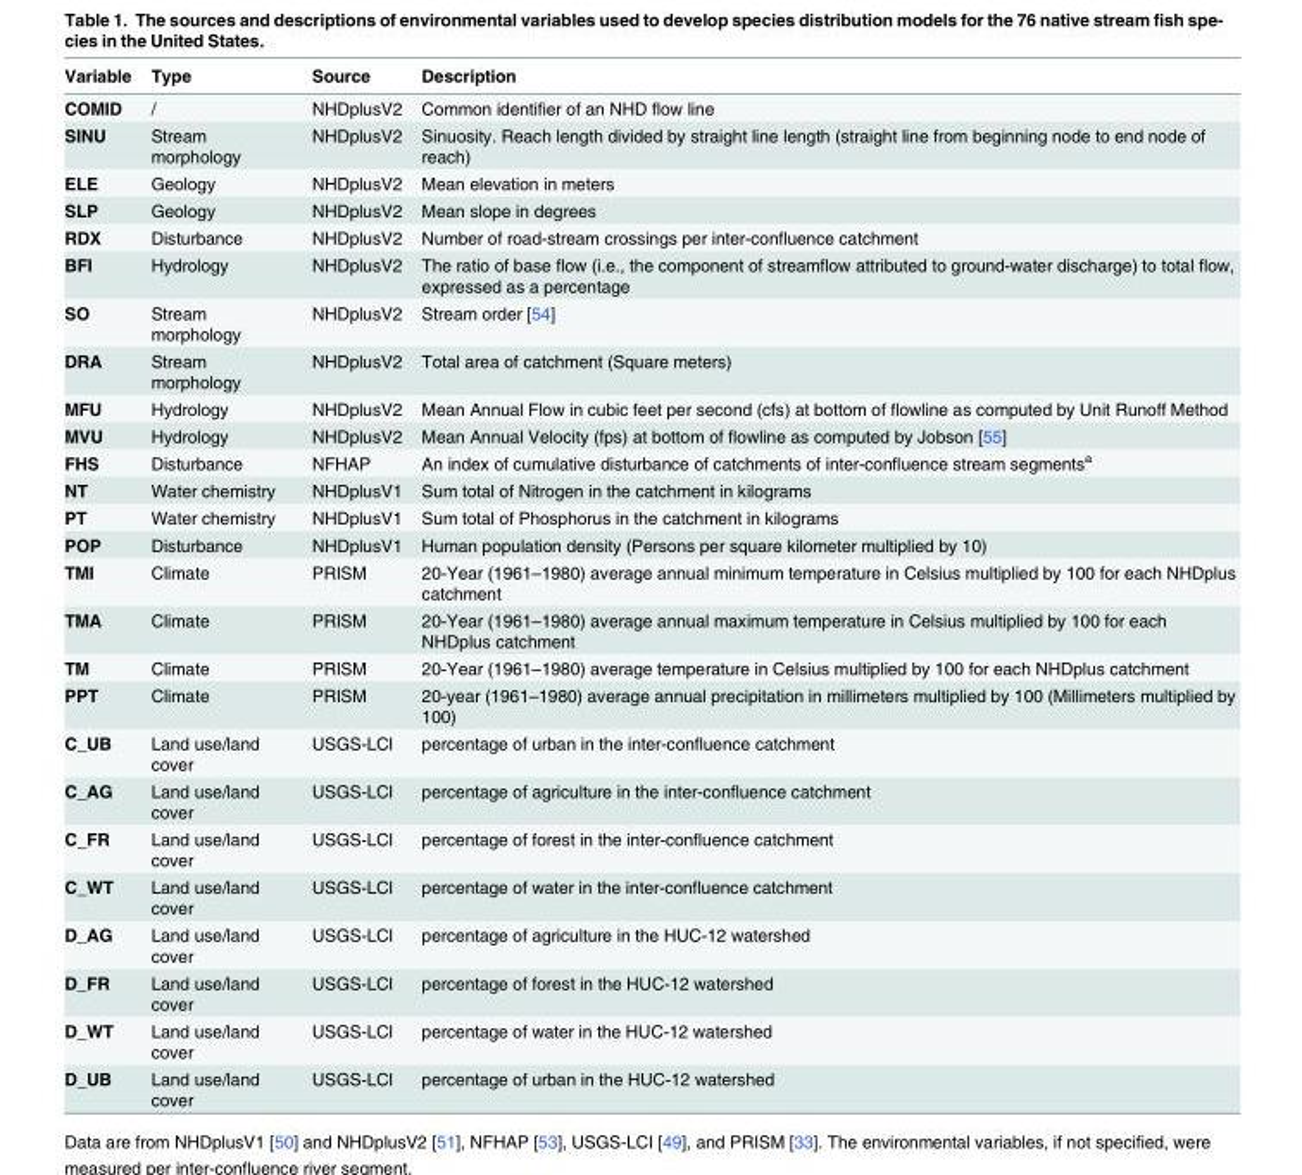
<table><thead><tr><td>Variable</td><td>Type</td><td>Source</td><td>Description</td></tr></thead><tbody><tr><td>COMID</td><td>/</td><td>NHDplusV2</td><td>Common identifier of an NHD flow line</td></tr><tr><td>SINU</td><td>Stream morphology</td><td>NHDplusV2</td><td>Sinuosity. Reach length divided by straight line length (straight line from beginning node to end node of reach)</td></tr><tr><td>ELE</td><td>Geology</td><td>NHDplusV2</td><td>Mean elevation in meters</td></tr><tr><td>SLP</td><td>Geology</td><td>NHDplusV2</td><td>Mean slope in degrees</td></tr><tr><td>RDX</td><td>Disturbance</td><td>NHDplusV2</td><td>Number of road-stream crossings per inter-confluence catchment</td></tr><tr><td>BFI</td><td>Hydrology</td><td>NHDplusV2</td><td>The ratio of base flow (i.e., the component of streamflow attributed to ground-water discharge) to total flow, expressed as a percentage</td></tr><tr><td>SO</td><td>Stream morphology</td><td>NHDplusV2</td><td>Stream order [54]</td></tr><tr><td>DRA</td><td>Stream morphology</td><td>NHDplusV2</td><td>Total area of catchment (Square meters)</td></tr><tr><td>MFU</td><td>Hydrology</td><td>NHDplusV2</td><td>Mean Annual Flow in cubic feet per second (cfs) at bottom of flowline as computed by Unit Runoff Method</td></tr><tr><td>MVU</td><td>Hydrology</td><td>NHDplusV2</td><td>Mean Annual Velocity (fps) at bottom of flowline as computed by Jobson [55]</td></tr><tr><td>FHS</td><td>Disturbance</td><td>NFHAP</td><td>An index of cumulative disturbance of catchments of inter-confluence stream segments<sup>a</sup></td></tr><tr><td>NT</td><td>Water chemistry</td><td>NHDplusV1</td><td>Sum total of Nitrogen in the catchment in kilograms</td></tr><tr><td>PT</td><td>Water chemistry</td><td>NHDplusV1</td><td>Sum total of Phosphorus in the catchment in kilograms</td></tr><tr><td>POP</td><td>Disturbance</td><td>NHDplusV1</td><td>Human population density (Persons per square kilometer multiplied by 10)</td></tr><tr><td>TMI</td><td>Climate</td><td>PRISM</td><td>20-Year (1961–1980) average annual minimum temperature in Celsius multiplied by 100 for each NHDplus catchment</td></tr><tr><td>TMA</td><td>Climate</td><td>PRISM</td><td>20-Year (1961–1980) average annual maximum temperature in Celsius multiplied by 100 for each NHDplus catchment</td></tr><tr><td>TM</td><td>Climate</td><td>PRISM</td><td>20-Year (1961–1980) average temperature in Celsius multiplied by 100 for each NHDplus catchment</td></tr><tr><td>PPT</td><td>Climate</td><td>PRISM</td><td>20-year (1961–1980) average annual precipitation in millimeters multiplied by 100 (Millimeters multiplied by 100)</td></tr><tr><td>C_UB</td><td>Land use/land cover</td><td>USGS-LCI</td><td>percentage of urban in the inter-confluence catchment</td></tr><tr><td>C_AG</td><td>Land use/land cover</td><td>USGS-LCI</td><td>percentage of agriculture in the inter-confluence catchment</td></tr><tr><td>C_FR</td><td>Land use/land cover</td><td>USGS-LCI</td><td>percentage of forest in the inter-confluence catchment</td></tr><tr><td>C_WT</td><td>Land use/land cover</td><td>USGS-LCI</td><td>percentage of water in the inter-confluence catchment</td></tr><tr><td>D_AG</td><td>Land use/land cover</td><td>USGS-LCI</td><td>percentage of agriculture in the HUC-12 watershed</td></tr><tr><td>D_FR</td><td>Land use/land cover</td><td>USGS-LCI</td><td>percentage of forest in the HUC-12 watershed</td></tr><tr><td>D_WT</td><td>Land use/land cover</td><td>USGS-LCI</td><td>percentage of water in the HUC-12 watershed</td></tr><tr><td>D_UB</td><td>Land use/land cover</td><td>USGS-LCI</td><td>percentage of urban in the HUC-12 watershed</td></tr></tbody></table>